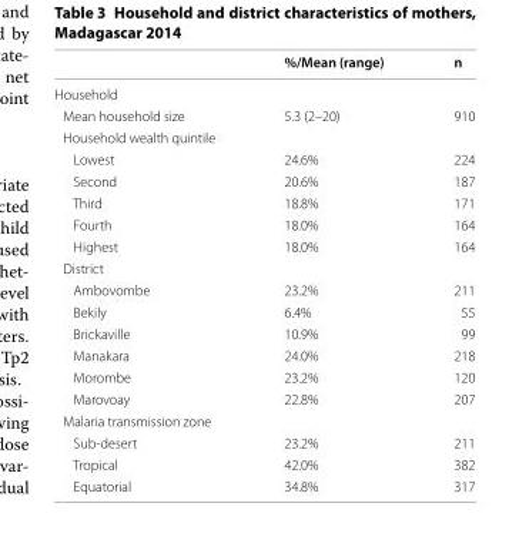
<table><thead><tr><td></td><td>%/Mean (range)</td><td>n</td></tr></thead><tbody><tr><td colspan="3">Household</td></tr><tr><td>Mean household size</td><td>5.3 (2–20)</td><td>910</td></tr><tr><td colspan="3">Household wealth quintile</td></tr><tr><td>Lowest</td><td>24.6%</td><td>224</td></tr><tr><td>Second</td><td>20.6%</td><td>187</td></tr><tr><td>Third</td><td>18.8%</td><td>171</td></tr><tr><td>Fourth</td><td>18.0%</td><td>164</td></tr><tr><td>Highest</td><td>18.0%</td><td>164</td></tr><tr><td colspan="3">District</td></tr><tr><td>Ambovombe</td><td>23.2%</td><td>211</td></tr><tr><td>Bekily</td><td>6.4%</td><td>55</td></tr><tr><td>Brickaville</td><td>10.9%</td><td>99</td></tr><tr><td>Manakara</td><td>24.0%</td><td>218</td></tr><tr><td>Morombe</td><td>23.2%</td><td>120</td></tr><tr><td>Marovoay</td><td>22.8%</td><td>207</td></tr><tr><td colspan="3">Malaria transmission zone</td></tr><tr><td>Sub-desert</td><td>23.2%</td><td>211</td></tr><tr><td>Tropical</td><td>42.0%</td><td>382</td></tr><tr><td>Equatorial</td><td>34.8%</td><td>317</td></tr></tbody></table>